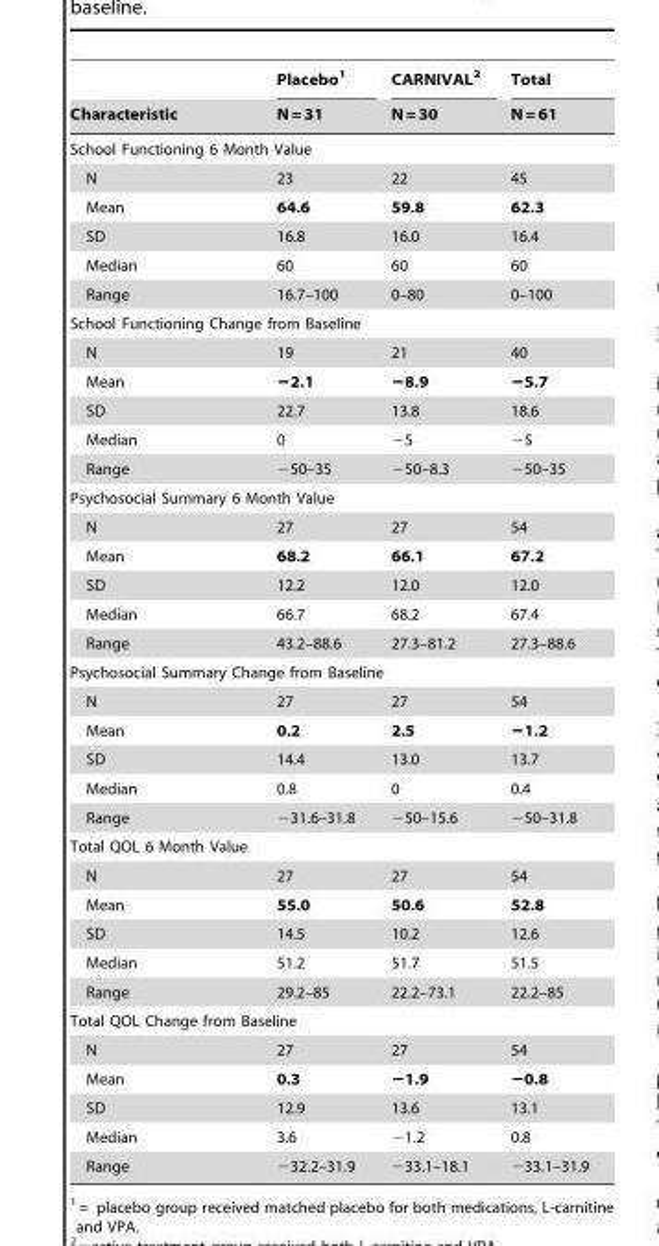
<table><thead><tr><td rowspan="2">Characteristic</td><td rowspan="2">Placebo<sup>1</sup> N = 31</td><td rowspan="2">CARNIVAL<sup>2</sup> N = 30</td><td rowspan="2">Total N = 61</td></tr><tr></tr></thead><tbody><tr><td colspan="4">School Functioning 6 Month Value</td></tr><tr><td>N</td><td>23</td><td>22</td><td>45</td></tr><tr><td>Mean</td><td>64.6</td><td>59.8</td><td>62.3</td></tr><tr><td>SD</td><td>16.8</td><td>16.0</td><td>16.4</td></tr><tr><td>Median</td><td>60</td><td>60</td><td>60</td></tr><tr><td>Range</td><td>16.7–100</td><td>0–80</td><td>0–100</td></tr><tr><td colspan="4">School Functioning Change from Baseline</td></tr><tr><td>N</td><td>19</td><td>21</td><td>40</td></tr><tr><td>Mean</td><td>−2.1</td><td>−8.9</td><td>−5.7</td></tr><tr><td>SD</td><td>22.7</td><td>13.8</td><td>18.6</td></tr><tr><td>Median</td><td>0</td><td>−5</td><td>−5</td></tr><tr><td>Range</td><td>−50–35</td><td>−50–8.3</td><td>−50–35</td></tr><tr><td colspan="4">Psychosocial Summary 6 Month Value</td></tr><tr><td>N</td><td>27</td><td>27</td><td>54</td></tr><tr><td>Mean</td><td>68.2</td><td>66.1</td><td>67.2</td></tr><tr><td>SD</td><td>12.2</td><td>12.0</td><td>12.0</td></tr><tr><td>Median</td><td>66.7</td><td>68.2</td><td>67.4</td></tr><tr><td>Range</td><td>43.2–88.6</td><td>27.3–81.2</td><td>27.3–88.6</td></tr><tr><td colspan="4">Psychosocial Summary Change from Baseline</td></tr><tr><td>N</td><td>27</td><td>27</td><td>54</td></tr><tr><td>Mean</td><td>0.2</td><td>2.5</td><td>−1.2</td></tr><tr><td>SD</td><td>14.4</td><td>13.0</td><td>13.7</td></tr><tr><td>Median</td><td>0.8</td><td>0</td><td>0.4</td></tr><tr><td>Range</td><td>−31.6–31.8</td><td>−50–15.6</td><td>−50–31.8</td></tr><tr><td colspan="4">Total QOL 6 Month Value</td></tr><tr><td>N</td><td>27</td><td>27</td><td>54</td></tr><tr><td>Mean</td><td>55.0</td><td>50.6</td><td>52.8</td></tr><tr><td>SD</td><td>14.5</td><td>10.2</td><td>12.6</td></tr><tr><td>Median</td><td>51.2</td><td>51.7</td><td>51.5</td></tr><tr><td>Range</td><td>29.2–85</td><td>22.2–73.1</td><td>22.2–85</td></tr><tr><td colspan="4">Total QOL Change from Baseline</td></tr><tr><td>N</td><td>27</td><td>27</td><td>54</td></tr><tr><td>Mean</td><td>0.3</td><td>−1.9</td><td>−0.8</td></tr><tr><td>SD</td><td>12.9</td><td>13.6</td><td>13.1</td></tr><tr><td>Median</td><td>3.6</td><td>−1.2</td><td>0.8</td></tr><tr><td>Range</td><td>−32.2–31.9</td><td>−33.1–18.1</td><td>−33.1–31.9</td></tr></tbody></table>